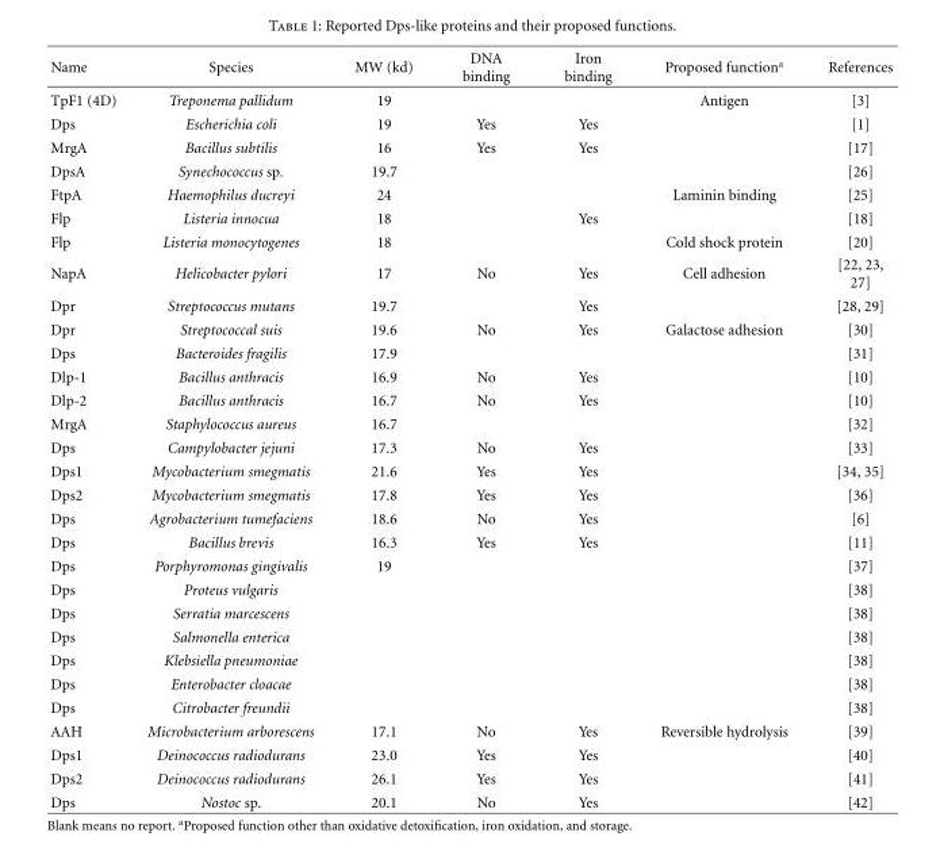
<table><thead><tr><td>Name</td><td>Species</td><td>MW (kd)</td><td>DNA binding</td><td>Iron binding</td><td>Proposed function<sup>a</sup></td><td>References</td></tr></thead><tbody><tr><td>TpF1 (4D)</td><td>Treponema pallidum</td><td>19</td><td></td><td></td><td>Antigen</td><td>[3]</td></tr><tr><td>Dps</td><td>Escherichia coli</td><td>19</td><td>Yes</td><td>Yes</td><td></td><td>[1]</td></tr><tr><td>MrgA</td><td>Bacillus subtilis</td><td>16</td><td>Yes</td><td>Yes</td><td></td><td>[17]</td></tr><tr><td>DpsA</td><td>Synechococcus sp.</td><td>19.7</td><td></td><td></td><td></td><td>[26]</td></tr><tr><td>FtpA</td><td>Haemophilus ducreyi</td><td>24</td><td></td><td></td><td>Laminin binding</td><td>[25]</td></tr><tr><td>Flp</td><td>Listeria innocua</td><td>18</td><td></td><td>Yes</td><td></td><td>[18]</td></tr><tr><td>Flp</td><td>Listeria monocytogenes</td><td>18</td><td></td><td></td><td>Cold shock protein</td><td>[20]</td></tr><tr><td>NapA</td><td>Helicobacter pylori</td><td>17</td><td>No</td><td>Yes</td><td>Cell adhesion</td><td>[22, 23, 27]</td></tr><tr><td>Dpr</td><td>Streptococcus mutans</td><td>19.7</td><td></td><td>Yes</td><td></td><td>[28, 29]</td></tr><tr><td>Dpr</td><td>Streptococcal suis</td><td>19.6</td><td>No</td><td>Yes</td><td>Galactose adhesion</td><td>[30]</td></tr><tr><td>Dps</td><td>Bacteroides fragilis</td><td>17.9</td><td></td><td></td><td></td><td>[31]</td></tr><tr><td>Dlp-1</td><td>Bacillus anthracis</td><td>16.9</td><td>No</td><td>Yes</td><td></td><td>[10]</td></tr><tr><td>Dlp-2</td><td>Bacillus anthracis</td><td>16.7</td><td>No</td><td>Yes</td><td></td><td>[10]</td></tr><tr><td>MrgA</td><td>Staphylococcus aureus</td><td>16.7</td><td></td><td></td><td></td><td>[32]</td></tr><tr><td>Dps</td><td>Campylobacter jejuni</td><td>17.3</td><td>No</td><td>Yes</td><td></td><td>[33]</td></tr><tr><td>Dps1</td><td>Mycobacterium smegmatis</td><td>21.6</td><td>Yes</td><td>Yes</td><td></td><td>[34, 35]</td></tr><tr><td>Dps2</td><td>Mycobacterium smegmatis</td><td>17.8</td><td>Yes</td><td>Yes</td><td></td><td>[36]</td></tr><tr><td>Dps</td><td>Agrobacterium tumefaciens</td><td>18.6</td><td>No</td><td>Yes</td><td></td><td>[6]</td></tr><tr><td>Dps</td><td>Bacillus brevis</td><td>16.3</td><td>Yes</td><td>Yes</td><td></td><td>[11]</td></tr><tr><td>Dps</td><td>Porphyromonas gingivalis</td><td>19</td><td></td><td></td><td></td><td>[37]</td></tr><tr><td>Dps</td><td>Proteus vulgaris</td><td></td><td></td><td></td><td></td><td>[38]</td></tr><tr><td>Dps</td><td>Serratia marcescens</td><td></td><td></td><td></td><td></td><td>[38]</td></tr><tr><td>Dps</td><td>Salmonella enterica</td><td></td><td></td><td></td><td></td><td>[38]</td></tr><tr><td>Dps</td><td>Klebsiella pneumoniae</td><td></td><td></td><td></td><td></td><td>[38]</td></tr><tr><td>Dps</td><td>Enterobacter cloacae</td><td></td><td></td><td></td><td></td><td>[38]</td></tr><tr><td>Dps</td><td>Citrobacter freundii</td><td></td><td></td><td></td><td></td><td>[38]</td></tr><tr><td>AAH</td><td>Microbacterium arborescens</td><td>17.1</td><td>No</td><td>Yes</td><td>Reversible hydrolysis</td><td>[39]</td></tr><tr><td>Dps1</td><td>Deinococcus radiodurans</td><td>23.0</td><td>Yes</td><td>Yes</td><td></td><td>[40]</td></tr><tr><td>Dps2</td><td>Deinococcus radiodurans</td><td>26.1</td><td>Yes</td><td>Yes</td><td></td><td>[41]</td></tr><tr><td>Dps</td><td>Nostoc sp.</td><td>20.1</td><td>No</td><td>Yes</td><td></td><td>[42]</td></tr></tbody></table>